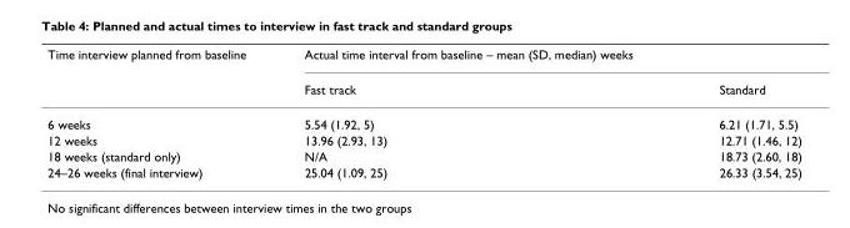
<table><thead><tr><td rowspan="2">Time interview planned from baseline</td><td rowspan="2">Actual time interval from baseline – mean (SD, median) weeks Fast track</td><td rowspan="2">Standard</td></tr><tr></tr></thead><tbody><tr><td>6 weeks</td><td>5.54 (1.92, 5)</td><td>6.21 (1.71, 5.5)</td></tr><tr><td>12 weeks</td><td>13.96 (2.93, 13)</td><td>12.71 (1.46, 12)</td></tr><tr><td>18 weeks (standard only)</td><td>N/A</td><td>18.73 (2.60, 18)</td></tr><tr><td>24–26 weeks (final interview)</td><td>25.04 (1.09, 25)</td><td>26.33 (3.54, 25)</td></tr></tbody></table>